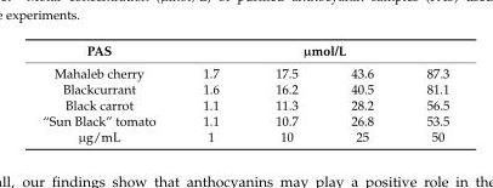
<table><thead><tr><td rowspan="2">PAS Mahaleb cherry</td><td colspan="4">µmol/L</td></tr><tr><td>1.7</td><td>17.5</td><td>43.6</td><td>87.3</td></tr></thead><tbody><tr><td>Blackcurrant</td><td>1.6</td><td>16.2</td><td>40.5</td><td>81.1</td></tr><tr><td>Black carrot</td><td>1.1</td><td>11.3</td><td>28.2</td><td>56.5</td></tr><tr><td>“Sun Black” tomato</td><td>1.1</td><td>10.7</td><td>26.8</td><td>53.5</td></tr><tr><td>µg/mL</td><td>1</td><td>10</td><td>25</td><td>50</td></tr></tbody></table>